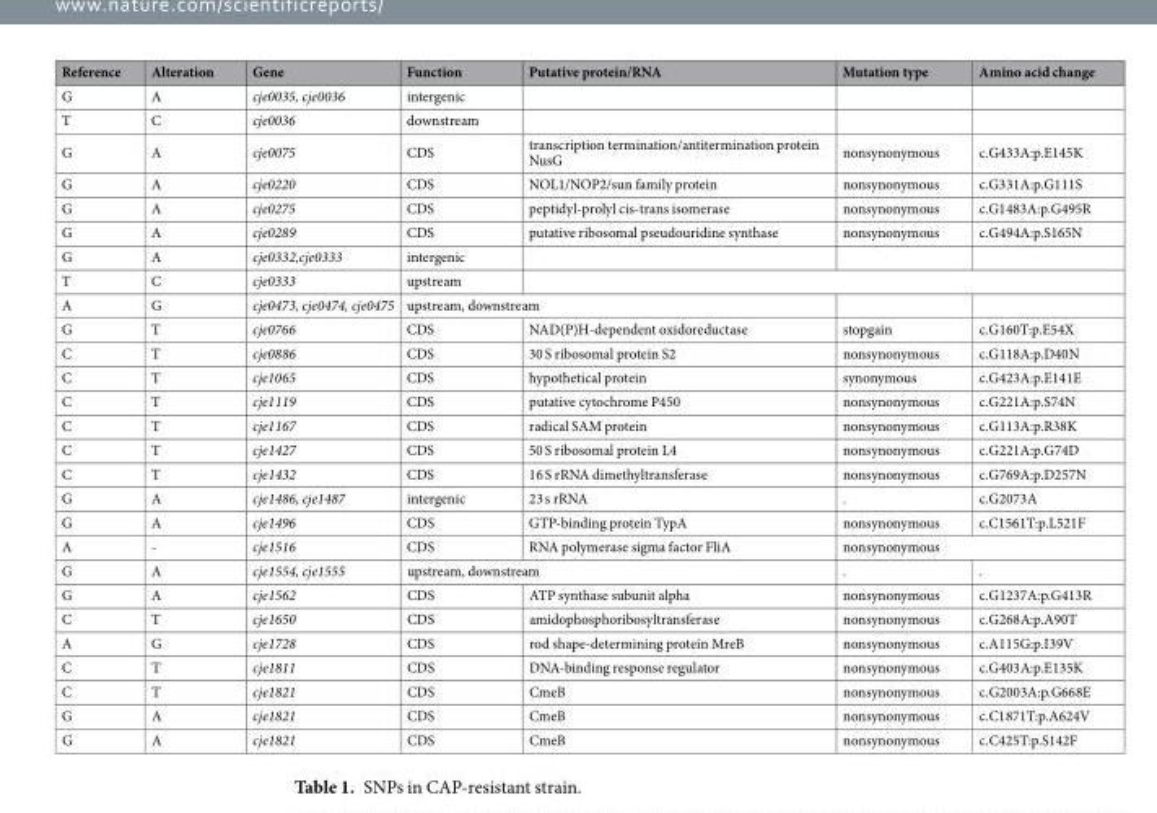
<table><thead><tr><td>Reference</td><td>Alteration</td><td>Gene</td><td>Function</td><td>Putative protein/RNA</td><td>Mutation type</td><td>Amino acid change</td></tr></thead><tbody><tr><td>G</td><td>A</td><td>cje0035, cje0036</td><td>intergenic</td><td></td><td></td><td></td></tr><tr><td>T</td><td>C</td><td>cje0036</td><td>downstream</td><td></td><td></td><td></td></tr><tr><td>G</td><td>A</td><td>cje0075</td><td>CDS</td><td>transcription termination/antitermination protein NusG</td><td>nonsynonymous</td><td>c.G433A:p.E145K</td></tr><tr><td>G</td><td>A</td><td>cje0220</td><td>CDS</td><td>NOL1/NOP2/sun family protein</td><td>nonsynonymous</td><td>c.G331A:p.G111S</td></tr><tr><td>G</td><td>A</td><td>cje0275</td><td>CDS</td><td>peptidyl-prolyl cis-trans isomerase</td><td>nonsynonymous</td><td>c.G1483A:p.G495R</td></tr><tr><td>G</td><td>A</td><td>cje0289</td><td>CDS</td><td>putative ribosomal pseudouridine synthase</td><td>nonsynonymous</td><td>c.G494A:p.S165N</td></tr><tr><td>G</td><td>A</td><td>cje0332,cje0333</td><td>intergenic</td><td></td><td></td><td></td></tr><tr><td>T</td><td>C</td><td>cje0333</td><td>upstream</td><td colspan="3"></td></tr><tr><td>A</td><td>G</td><td>cje0473, cje0474, cje0475</td><td colspan="2">upstream, downstream</td><td></td><td></td></tr><tr><td>G</td><td>T</td><td>cje0766</td><td>CDS</td><td>NAD(P)H-dependent oxidoreductase</td><td>stopgain</td><td>c.G160T:p.E54X</td></tr><tr><td>C</td><td>T</td><td>cje0886</td><td>CDS</td><td>30 S ribosomal protein S2</td><td>nonsynonymous</td><td>c.G118A:p.D40N</td></tr><tr><td>C</td><td>T</td><td>cje1065</td><td>CDS</td><td>hypothetical protein</td><td>synonymous</td><td>c.G423A:p.E141E</td></tr><tr><td>C</td><td>T</td><td>cje1119</td><td>CDS</td><td>putative cytochrome P450</td><td>nonsynonymous</td><td>c.G221A:p.S74N</td></tr><tr><td>C</td><td>T</td><td>cje1167</td><td>CDS</td><td>radical SAM protein</td><td>nonsynonymous</td><td>c.G113A:p.R38K</td></tr><tr><td>C</td><td>T</td><td>cje1427</td><td>CDS</td><td>50 S ribosomal protein L4</td><td>nonsynonymous</td><td>c.G221A:p.G74D</td></tr><tr><td>C</td><td>T</td><td>cje1432</td><td>CDS</td><td>16 S rRNA dimethyltransferase</td><td>nonsynonymous</td><td>c.G769A:p.D257N</td></tr><tr><td>G</td><td>A</td><td>cje1486, cje1487</td><td>intergenic</td><td>23 s rRNA</td><td>.</td><td>c.G2073A</td></tr><tr><td>G</td><td>A</td><td>cje1496</td><td>CDS</td><td>GTP-binding protein TypA</td><td>nonsynonymous</td><td>c.C1561T:p.L521F</td></tr><tr><td>A</td><td>-</td><td>cje1516</td><td>CDS</td><td>RNA polymerase sigma factor FliA</td><td colspan="2">nonsynonymous</td></tr><tr><td>G</td><td>A</td><td>cje1554, cje1555</td><td colspan="2">upstream, downstream</td><td>.</td><td>.</td></tr><tr><td>G</td><td>A</td><td>cje1562</td><td>CDS</td><td>ATP synthase subunit alpha</td><td>nonsynonymous</td><td>c.G1237A:p.G413R</td></tr><tr><td>C</td><td>T</td><td>cje1650</td><td>CDS</td><td>amidophosphoribosyltransferase</td><td>nonsynonymous</td><td>c.G268A:p.A90T</td></tr><tr><td>A</td><td>G</td><td>cje1728</td><td>CDS</td><td>rod shape-determining protein MreB</td><td>nonsynonymous</td><td>c.A115G:p.I39V</td></tr><tr><td>C</td><td>T</td><td>cje1811</td><td>CDS</td><td>DNA-binding response regulator</td><td>nonsynonymous</td><td>c.G403A:p.E135K</td></tr><tr><td>C</td><td>T</td><td>cje1821</td><td>CDS</td><td>CmeB</td><td>nonsynonymous</td><td>c.G2003A:p.G668E</td></tr><tr><td>G</td><td>A</td><td>cje1821</td><td>CDS</td><td>CmeB</td><td>nonsynonymous</td><td>c.C1871T:p.A624V</td></tr><tr><td>G</td><td>A</td><td>cje1821</td><td>CDS</td><td>CmeB</td><td>nonsynonymous</td><td>c.C425T:p.S142F</td></tr></tbody></table>